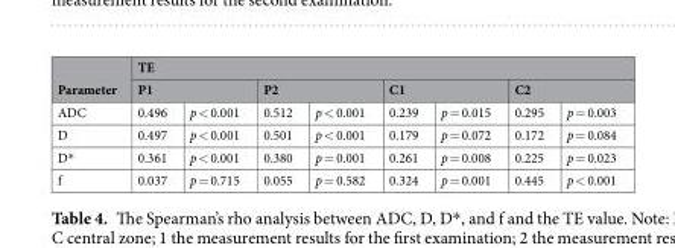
<table><thead><tr><td rowspan="3">Parameter ADC</td><td colspan="8">TE</td></tr><tr><td colspan="2">P1</td><td colspan="2">P2</td><td colspan="2">C1</td><td colspan="2">C2</td></tr><tr><td>0.496</td><td>p &lt; 0.001</td><td>0.512</td><td>p &lt; 0.001</td><td>0.239</td><td>p = 0.015</td><td>0.295</td><td>p = 0.003</td></tr></thead><tbody><tr><td>D</td><td>0.497</td><td>p &lt; 0.001</td><td>0.501</td><td>p &lt; 0.001</td><td>0.179</td><td>p = 0.072</td><td>0.172</td><td>p = 0.084</td></tr><tr><td>D*</td><td>0.361</td><td>p &lt; 0.001</td><td>0.380</td><td>p = 0.001</td><td>0.261</td><td>p = 0.008</td><td>0.225</td><td>p = 0.023</td></tr><tr><td>f</td><td>0.037</td><td>p = 0.715</td><td>0.055</td><td>p = 0.582</td><td>0.324</td><td>p = 0.001</td><td>0.445</td><td>p &lt; 0.001</td></tr></tbody></table>